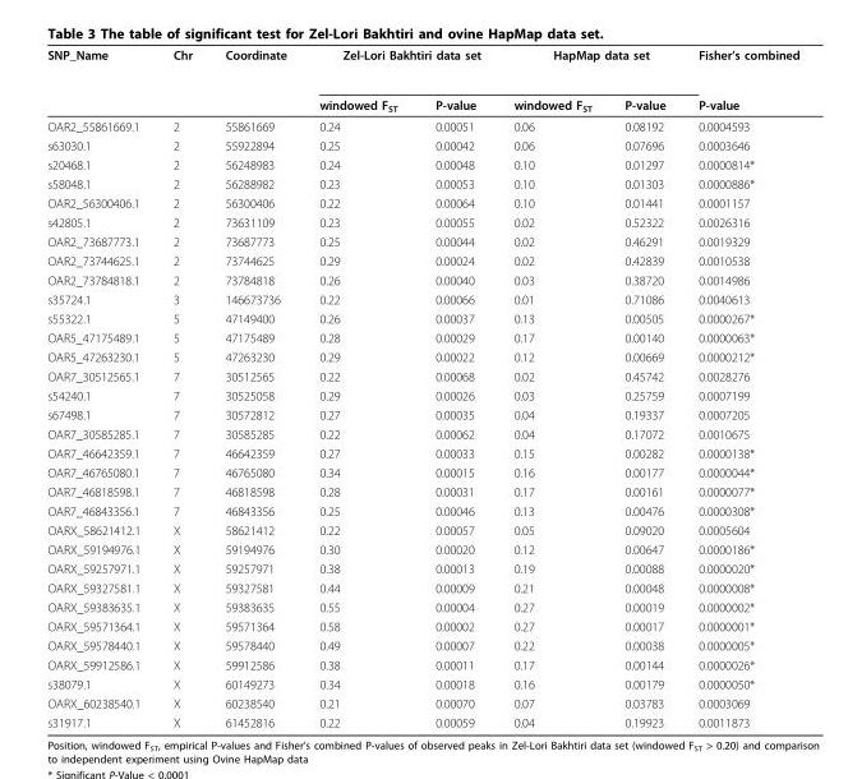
<table><thead><tr><td rowspan="2">SNP_Name</td><td rowspan="2">Chr</td><td rowspan="2">Coordinate</td><td colspan="2">Zel-Lori Bakhtiri data set</td><td colspan="2">HapMap data set</td><td rowspan="2">Fisher’s combined P-value</td></tr><tr><td>windowed F<sub>ST</sub></td><td>P-value</td><td>windowed F<sub>ST</sub></td><td>P-value</td></tr></thead><tbody><tr><td>OAR2_55861669.1</td><td>2</td><td>55861669</td><td>0.24</td><td>0.00051</td><td>0.06</td><td>0.08192</td><td>0.0004593</td></tr><tr><td>s63030.1</td><td>2</td><td>55922894</td><td>0.25</td><td>0.00042</td><td>0.06</td><td>0.07696</td><td>0.0003646</td></tr><tr><td>s20468.1</td><td>2</td><td>56248983</td><td>0.24</td><td>0.00048</td><td>0.10</td><td>0.01297</td><td>0.0000814*</td></tr><tr><td>s58048.1</td><td>2</td><td>56288982</td><td>0.23</td><td>0.00053</td><td>0.10</td><td>0.01303</td><td>0.0000886*</td></tr><tr><td>OAR2_56300406.1</td><td>2</td><td>56300406</td><td>0.22</td><td>0.00064</td><td>0.10</td><td>0.01441</td><td>0.0001157</td></tr><tr><td>s42805.1</td><td>2</td><td>73631109</td><td>0.23</td><td>0.00055</td><td>0.02</td><td>0.52322</td><td>0.0026316</td></tr><tr><td>OAR2_73687773.1</td><td>2</td><td>73687773</td><td>0.25</td><td>0.00044</td><td>0.02</td><td>0.46291</td><td>0.0019329</td></tr><tr><td>OAR2_73744625.1</td><td>2</td><td>73744625</td><td>0.29</td><td>0.00024</td><td>0.02</td><td>0.42839</td><td>0.0010538</td></tr><tr><td>OAR2_73784818.1</td><td>2</td><td>73784818</td><td>0.26</td><td>0.00040</td><td>0.03</td><td>0.38720</td><td>0.0014986</td></tr><tr><td>s35724.1</td><td>3</td><td>146673736</td><td>0.22</td><td>0.00066</td><td>0.01</td><td>0.71086</td><td>0.0040613</td></tr><tr><td>s55322.1</td><td>5</td><td>47149400</td><td>0.26</td><td>0.00037</td><td>0.13</td><td>0.00505</td><td>0.0000267*</td></tr><tr><td>OAR5_47175489.1</td><td>5</td><td>47175489</td><td>0.28</td><td>0.00029</td><td>0.17</td><td>0.00140</td><td>0.0000063*</td></tr><tr><td>OAR5_47263230.1</td><td>5</td><td>47263230</td><td>0.29</td><td>0.00022</td><td>0.12</td><td>0.00669</td><td>0.0000212*</td></tr><tr><td>OAR7_30512565.1</td><td>7</td><td>30512565</td><td>0.22</td><td>0.00068</td><td>0.02</td><td>0.45742</td><td>0.0028276</td></tr><tr><td>s54240.1</td><td>7</td><td>30525058</td><td>0.29</td><td>0.00026</td><td>0.03</td><td>0.25759</td><td>0.0007199</td></tr><tr><td>s67498.1</td><td>7</td><td>30572812</td><td>0.27</td><td>0.00035</td><td>0.04</td><td>0.19337</td><td>0.0007205</td></tr><tr><td>OAR7_30585285.1</td><td>7</td><td>30585285</td><td>0.22</td><td>0.00062</td><td>0.04</td><td>0.17072</td><td>0.0010675</td></tr><tr><td>OAR7_46642359.1</td><td>7</td><td>46642359</td><td>0.27</td><td>0.00033</td><td>0.15</td><td>0.00282</td><td>0.0000138*</td></tr><tr><td>OAR7_46765080.1</td><td>7</td><td>46765080</td><td>0.34</td><td>0.00015</td><td>0.16</td><td>0.00177</td><td>0.0000044*</td></tr><tr><td>OAR7_46818598.1</td><td>7</td><td>46818598</td><td>0.28</td><td>0.00031</td><td>0.17</td><td>0.00161</td><td>0.0000077*</td></tr><tr><td>OAR7_46843356.1</td><td>7</td><td>46843356</td><td>0.25</td><td>0.00046</td><td>0.13</td><td>0.00476</td><td>0.0000308*</td></tr><tr><td>OARX_58621412.1</td><td>X</td><td>58621412</td><td>0.22</td><td>0.00057</td><td>0.05</td><td>0.09020</td><td>0.0005604</td></tr><tr><td>OARX_59194976.1</td><td>X</td><td>59194976</td><td>0.30</td><td>0.00020</td><td>0.12</td><td>0.00647</td><td>0.0000186*</td></tr><tr><td>OARX_59257971.1</td><td>X</td><td>59257971</td><td>0.38</td><td>0.00013</td><td>0.19</td><td>0.00088</td><td>0.0000020*</td></tr><tr><td>OARX_59327581.1</td><td>X</td><td>59327581</td><td>0.44</td><td>0.00009</td><td>0.21</td><td>0.00048</td><td>0.0000008*</td></tr><tr><td>OARX_59383635.1</td><td>X</td><td>59383635</td><td>0.55</td><td>0.00004</td><td>0.27</td><td>0.00019</td><td>0.0000002*</td></tr><tr><td>OARX_59571364.1</td><td>X</td><td>59571364</td><td>0.58</td><td>0.00002</td><td>0.27</td><td>0.00017</td><td>0.0000001*</td></tr><tr><td>OARX_59578440.1</td><td>X</td><td>59578440</td><td>0.49</td><td>0.00007</td><td>0.22</td><td>0.00038</td><td>0.0000005*</td></tr><tr><td>OARX_59912586.1</td><td>X</td><td>59912586</td><td>0.38</td><td>0.00011</td><td>0.17</td><td>0.00144</td><td>0.0000026*</td></tr><tr><td>s38079.1</td><td>X</td><td>60149273</td><td>0.34</td><td>0.00018</td><td>0.16</td><td>0.00179</td><td>0.0000050*</td></tr><tr><td>OARX_60238540.1</td><td>X</td><td>60238540</td><td>0.21</td><td>0.00070</td><td>0.07</td><td>0.03783</td><td>0.0003069</td></tr><tr><td>s31917.1</td><td>X</td><td>61452816</td><td>0.22</td><td>0.00059</td><td>0.04</td><td>0.19923</td><td>0.0011873</td></tr></tbody></table>